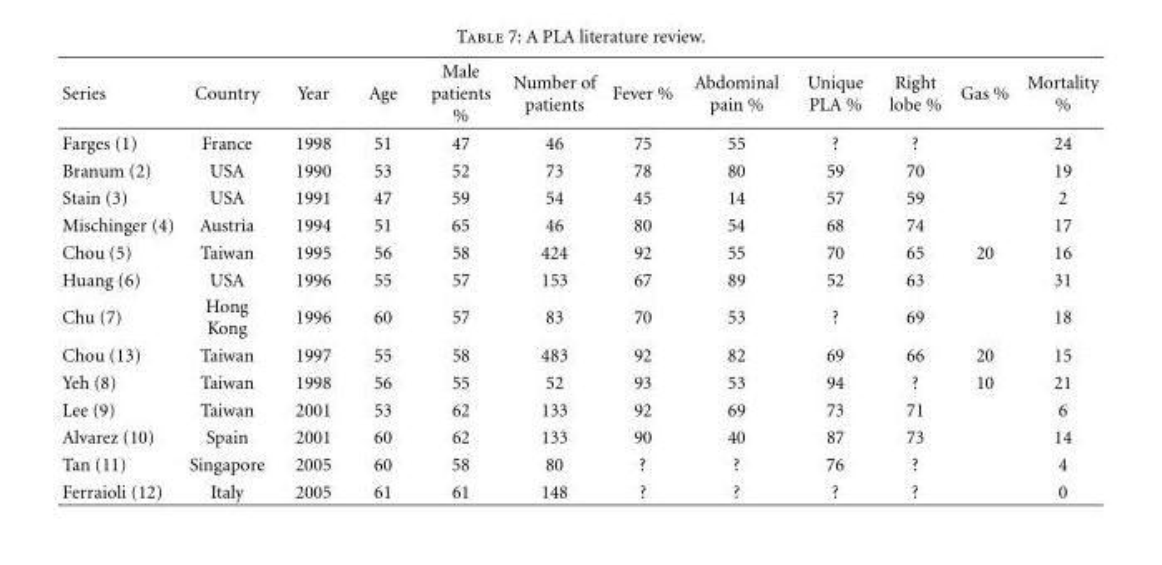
<table><thead><tr><td>Series</td><td>Country</td><td>Year</td><td>Age</td><td>Male patients %</td><td>Number of patients</td><td>Fever %</td><td>Abdominal pain %</td><td>Unique PLA %</td><td>Right lobe %</td><td>Gas %</td><td>Mortality %</td></tr></thead><tbody><tr><td>Farges (1)</td><td>France</td><td>1998</td><td>51</td><td>47</td><td>46</td><td>75</td><td>55</td><td>?</td><td>?</td><td></td><td>24</td></tr><tr><td>Branum (2)</td><td>USA</td><td>1990</td><td>53</td><td>52</td><td>73</td><td>78</td><td>80</td><td>59</td><td>70</td><td></td><td>19</td></tr><tr><td>Stain (3)</td><td>USA</td><td>1991</td><td>47</td><td>59</td><td>54</td><td>45</td><td>14</td><td>57</td><td>59</td><td></td><td>2</td></tr><tr><td>Mischinger (4)</td><td>Austria</td><td>1994</td><td>51</td><td>65</td><td>46</td><td>80</td><td>54</td><td>68</td><td>74</td><td></td><td>17</td></tr><tr><td>Chou (5)</td><td>Taiwan</td><td>1995</td><td>56</td><td>58</td><td>424</td><td>92</td><td>55</td><td>70</td><td>65</td><td>20</td><td>16</td></tr><tr><td>Huang (6)</td><td>USA</td><td>1996</td><td>55</td><td>57</td><td>153</td><td>67</td><td>89</td><td>52</td><td>63</td><td></td><td>31</td></tr><tr><td>Chu (7)</td><td>Hong Kong</td><td>1996</td><td>60</td><td>57</td><td>83</td><td>70</td><td>53</td><td>?</td><td>69</td><td></td><td>18</td></tr><tr><td>Chou (13)</td><td>Taiwan</td><td>1997</td><td>55</td><td>58</td><td>483</td><td>92</td><td>82</td><td>69</td><td>66</td><td>20</td><td>15</td></tr><tr><td>Yeh (8)</td><td>Taiwan</td><td>1998</td><td>56</td><td>55</td><td>52</td><td>93</td><td>53</td><td>94</td><td>?</td><td>10</td><td>21</td></tr><tr><td>Lee (9)</td><td>Taiwan</td><td>2001</td><td>53</td><td>62</td><td>133</td><td>92</td><td>69</td><td>73</td><td>71</td><td></td><td>6</td></tr><tr><td>Alvarez (10)</td><td>Spain</td><td>2001</td><td>60</td><td>62</td><td>133</td><td>90</td><td>40</td><td>87</td><td>73</td><td></td><td>14</td></tr><tr><td>Tan (11)</td><td>Singapore</td><td>2005</td><td>60</td><td>58</td><td>80</td><td>?</td><td>?</td><td>76</td><td>?</td><td></td><td>4</td></tr><tr><td>Ferraioli (12)</td><td>Italy</td><td>2005</td><td>61</td><td>61</td><td>148</td><td>?</td><td>?</td><td>?</td><td>?</td><td></td><td>0</td></tr></tbody></table>